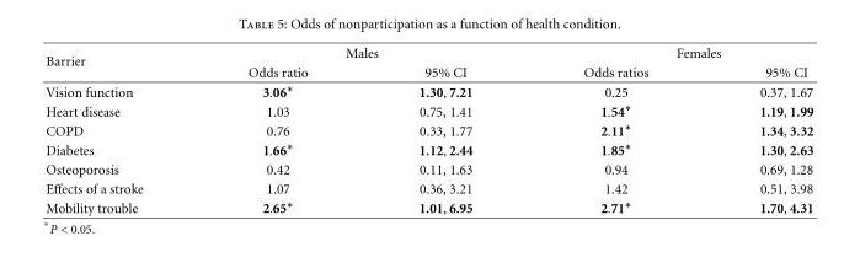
<table><thead><tr><td rowspan="2">Barrier</td><td colspan="2">Males</td><td colspan="2">Females</td></tr><tr><td>Odds ratio</td><td>95% CI</td><td>Odds ratios</td><td>95% CI</td></tr></thead><tbody><tr><td>Vision function</td><td>3.06∗</td><td>1.30, 7.21</td><td>0.25</td><td>0.37, 1.67</td></tr><tr><td>Heart disease</td><td>1.03</td><td>0.75, 1.41</td><td>1.54∗</td><td>1.19, 1.99</td></tr><tr><td>COPD</td><td>0.76</td><td>0.33, 1.77</td><td>2.11∗</td><td>1.34, 3.32</td></tr><tr><td>Diabetes</td><td>1.66∗</td><td>1.12, 2.44</td><td>1.85∗</td><td>1.30, 2.63</td></tr><tr><td>Osteoporosis</td><td>0.42</td><td>0.11, 1.63</td><td>0.94</td><td>0.69, 1.28</td></tr><tr><td>Effects of a stroke</td><td>1.07</td><td>0.36, 3.21</td><td>1.42</td><td>0.51, 3.98</td></tr><tr><td>Mobility trouble</td><td>2.65∗</td><td>1.01, 6.95</td><td>2.71∗</td><td>1.70, 4.31</td></tr></tbody></table>